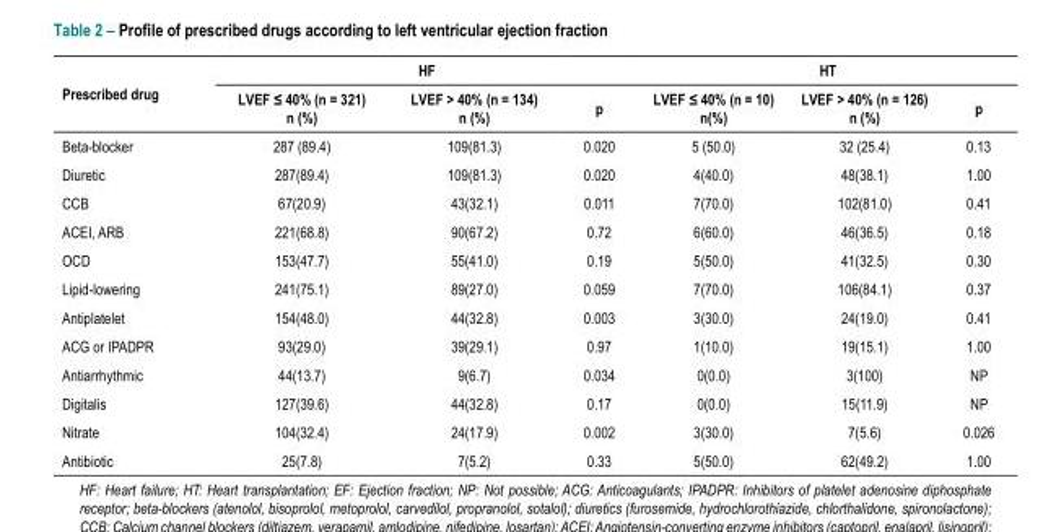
<table><thead><tr><td rowspan="2">Prescribed drug</td><td colspan="3">HF</td><td colspan="3">HT</td></tr><tr><td>LVEF ≤ 40% (n = 321) n (%)</td><td>LVEF &gt; 40% (n = 134) n (%)</td><td>p</td><td>LVEF ≤ 40% (n = 10) n(%)</td><td>LVEF &gt; 40% (n = 126) n (%)</td><td>p</td></tr></thead><tbody><tr><td>Beta-blocker</td><td>287 (89.4)</td><td>109(81.3)</td><td>0.020</td><td>5 (50.0)</td><td>32 (25.4)</td><td>0.13</td></tr><tr><td>Diuretic</td><td>287(89.4)</td><td>109(81.3)</td><td>0.020</td><td>4(40.0)</td><td>48(38.1)</td><td>1.00</td></tr><tr><td>CCB</td><td>67(20.9)</td><td>43(32.1)</td><td>0.011</td><td>7(70.0)</td><td>102(81.0)</td><td>0.41</td></tr><tr><td>ACEI, ARB</td><td>221(68.8)</td><td>90(67.2)</td><td>0.72</td><td>6(60.0)</td><td>46(36.5)</td><td>0.18</td></tr><tr><td>OCD</td><td>153(47.7)</td><td>55(41.0)</td><td>0.19</td><td>5(50.0)</td><td>41(32.5)</td><td>0.30</td></tr><tr><td>Lipid-lowering</td><td>241(75.1)</td><td>89(27.0)</td><td>0.059</td><td>7(70.0)</td><td>106(84.1)</td><td>0.37</td></tr><tr><td>Antiplatelet</td><td>154(48.0)</td><td>44(32.8)</td><td>0.003</td><td>3(30.0)</td><td>24(19.0)</td><td>0.41</td></tr><tr><td>ACG or IPADPR</td><td>93(29.0)</td><td>39(29.1)</td><td>0.97</td><td>1(10.0)</td><td>19(15.1)</td><td>1.00</td></tr><tr><td>Antiarrhythmic</td><td>44(13.7)</td><td>9(6.7)</td><td>0.034</td><td>0(0.0)</td><td>3(100)</td><td>NP</td></tr><tr><td>Digitalis</td><td>127(39.6)</td><td>44(32.8)</td><td>0.17</td><td>0(0.0)</td><td>15(11.9)</td><td>NP</td></tr><tr><td>Nitrate</td><td>104(32.4)</td><td>24(17.9)</td><td>0.002</td><td>3(30.0)</td><td>7(5.6)</td><td>0.026</td></tr><tr><td>Antibiotic</td><td>25(7.8)</td><td>7(5.2)</td><td>0.33</td><td>5(50.0)</td><td>62(49.2)</td><td>1.00</td></tr></tbody></table>